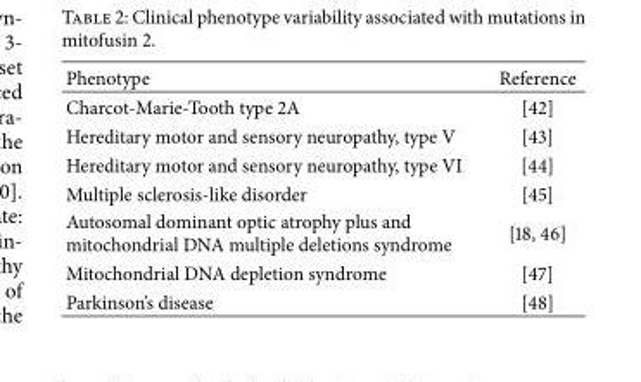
<table><thead><tr><td>Phenotype</td><td>Reference</td></tr></thead><tbody><tr><td>Charcot-Marie-Tooth type 2A</td><td>[42]</td></tr><tr><td>Hereditary motor and sensory neuropathy, type V</td><td>[43]</td></tr><tr><td>Hereditary motor and sensory neuropathy, type VI</td><td>[44]</td></tr><tr><td>Multiple sclerosis-like disorder</td><td>[45]</td></tr><tr><td>Autosomal dominant optic atrophy plus and mitochondrial DNA multiple deletions syndrome</td><td>[18, 46]</td></tr><tr><td>Mitochondrial DNA depletion syndrome</td><td>[47]</td></tr><tr><td>Parkinson’s disease</td><td>[48]</td></tr></tbody></table>